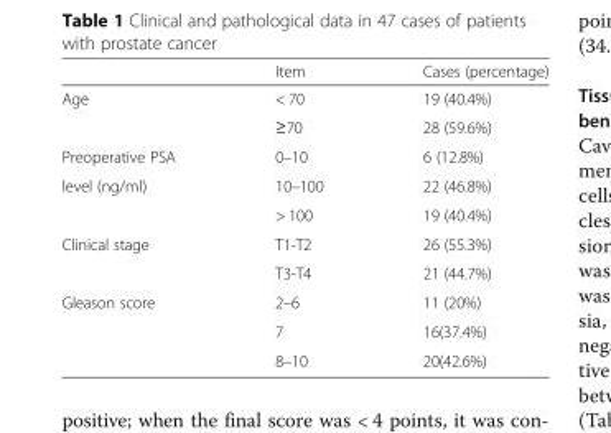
<table><thead><tr><td></td><td>Item</td><td>Cases (percentage)</td></tr></thead><tbody><tr><td rowspan="2">Age</td><td>&lt; 70</td><td>19 (40.4%)</td></tr><tr><td>≥70</td><td>28 (59.6%)</td></tr><tr><td>Preoperative PSA</td><td>0–10</td><td>6 (12.8%)</td></tr><tr><td rowspan="2">level (ng/ml)</td><td>10–100</td><td>22 (46.8%)</td></tr><tr><td>&gt; 100</td><td>19 (40.4%)</td></tr><tr><td rowspan="2">Clinical stage</td><td>T1-T2</td><td>26 (55.3%)</td></tr><tr><td>T3-T4</td><td>21 (44.7%)</td></tr><tr><td rowspan="3">Gleason score</td><td>2–6</td><td>11 (20%)</td></tr><tr><td>7</td><td>16(37.4%)</td></tr><tr><td>8–10</td><td>20(42.6%)</td></tr></tbody></table>